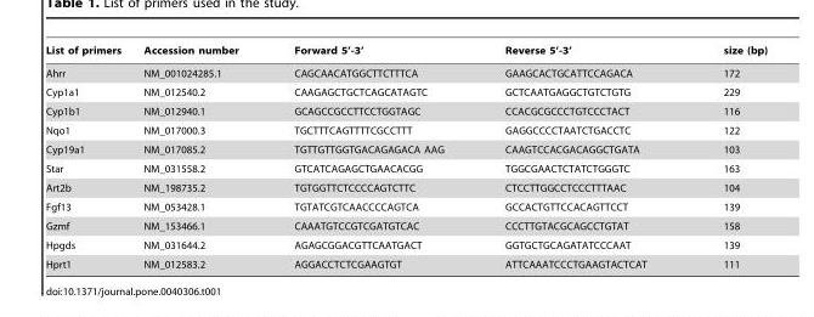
<table><thead><tr><td>List of primers</td><td>Accession number</td><td>Forward 5’-3’</td><td>Reverse 5’-3’</td><td>size (bp)</td></tr></thead><tbody><tr><td>Ahrr</td><td>NM_001024285.1</td><td>CAGCAACATGGCTTCTTTCA</td><td>GAAGCACTGCATTCCAGACA</td><td>172</td></tr><tr><td>Cyp1a1</td><td>NM_012540.2</td><td>CAAGAGCTGCTCAGCATAGTC</td><td>GCTCAATGAGGCTGTCTGTG</td><td>229</td></tr><tr><td>Cyp1b1</td><td>NM_012940.1</td><td>GCAGCCGCCTTCCTGGTAGC</td><td>CCACGCGCCCTGTCCCTACT</td><td>116</td></tr><tr><td>Nqo1</td><td>NM_017000.3</td><td>TGCTTTCAGTTTTCGCCTTT</td><td>GAGGCCCCTAATCTGACCTC</td><td>122</td></tr><tr><td>Cyp19a1</td><td>NM_017085.2</td><td>TGTTGTTGGTGACAGAGACA AAG</td><td>CAAGTCCACGACAGGCTGATA</td><td>103</td></tr><tr><td>Star</td><td>NM_031558.2</td><td>GTCATCAGAGCTGAACACGG</td><td>TGGCGAACTCTATCTGGGTC</td><td>163</td></tr><tr><td>Art2b</td><td>NM_198735.2</td><td>TGTGGTTCTCCCCAGTCTTC</td><td>CTCCTTGGCCTCCCTTTAAC</td><td>104</td></tr><tr><td>Fgf13</td><td>NM_053428.1</td><td>TGTATCGTCAACCCCAGTCA</td><td>GCCACTGTTCCACAGTTCCT</td><td>139</td></tr><tr><td>Gzmf</td><td>NM_153466.1</td><td>CAAATGTCCGTCGATGTCAC</td><td>CCCTTGTACGCAGCCTGTAT</td><td>158</td></tr><tr><td>Hpgds</td><td>NM_031644.2</td><td>AGAGCGGACGTTCAATGACT</td><td>GGTGCTGCAGATATCCCAAT</td><td>139</td></tr><tr><td>Hprt1</td><td>NM_012583.2</td><td>AGGACCTCTCGAAGTGT</td><td>ATTCAAATCCCTGAAGTACTCAT</td><td>111</td></tr></tbody></table>